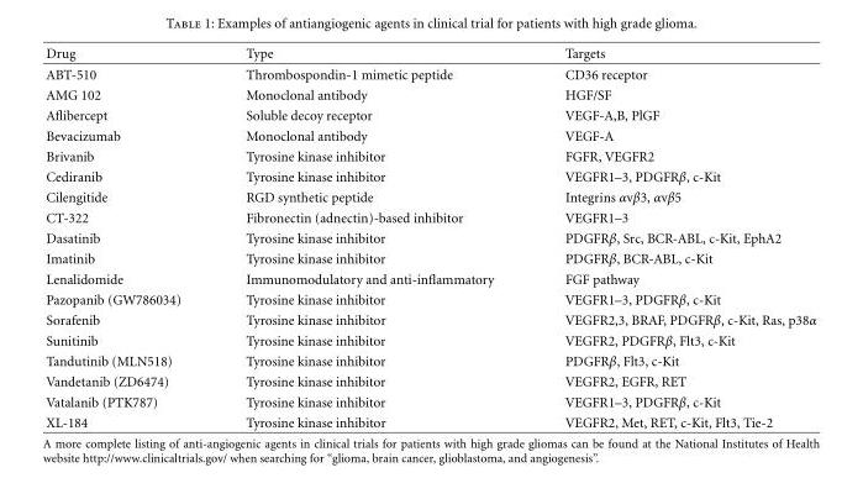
<table><thead><tr><td>Drug</td><td>Type</td><td>Targets</td></tr></thead><tbody><tr><td>ABT-510</td><td>Thrombospondin-1 mimetic peptide</td><td>CD36 receptor</td></tr><tr><td>AMG 102</td><td>Monoclonal antibody</td><td>HGF/SF</td></tr><tr><td>Aflibercept</td><td>Soluble decoy receptor</td><td>VEGF-A,B, PlGF</td></tr><tr><td>Bevacizumab</td><td>Monoclonal antibody</td><td>VEGF-A</td></tr><tr><td>Brivanib</td><td>Tyrosine kinase inhibitor</td><td>FGFR, VEGFR2</td></tr><tr><td>Cediranib</td><td>Tyrosine kinase inhibitor</td><td>VEGFR1–3, PDGFRβ, c-Kit</td></tr><tr><td>Cilengitide</td><td>RGD synthetic peptide</td><td>Integrins αvβ3, αvβ5</td></tr><tr><td>CT-322</td><td>Fibronectin (adnectin)-based inhibitor</td><td>VEGFR1–3</td></tr><tr><td>Dasatinib</td><td>Tyrosine kinase inhibitor</td><td>PDGFRβ, Src, BCR-ABL, c-Kit, EphA2</td></tr><tr><td>Imatinib</td><td>Tyrosine kinase inhibitor</td><td>PDGFRβ, BCR-ABL, c-Kit</td></tr><tr><td>Lenalidomide</td><td>Immunomodulatory and anti-inflammatory</td><td>FGF pathway</td></tr><tr><td>Pazopanib (GW786034)</td><td>Tyrosine kinase inhibitor</td><td>VEGFR1–3, PDGFRβ, c-Kit</td></tr><tr><td>Sorafenib</td><td>Tyrosine kinase inhibitor</td><td>VEGFR2,3, BRAF, PDGFRβ, c-Kit, Ras, p38α</td></tr><tr><td>Sunitinib</td><td>Tyrosine kinase inhibitor</td><td>VEGFR2, PDGFRβ, Flt3, c-Kit</td></tr><tr><td>Tandutinib (MLN518)</td><td>Tyrosine kinase inhibitor</td><td>PDGFRβ, Flt3, c-Kit</td></tr><tr><td>Vandetanib (ZD6474)</td><td>Tyrosine kinase inhibitor</td><td>VEGFR2, EGFR, RET</td></tr><tr><td>Vatalanib (PTK787)</td><td>Tyrosine kinase inhibitor</td><td>VEGFR1–3, PDGFRβ, c-Kit</td></tr><tr><td>XL-184</td><td>Tyrosine kinase inhibitor</td><td>VEGFR2, Met, RET, c-Kit, Flt3, Tie-2</td></tr></tbody></table>